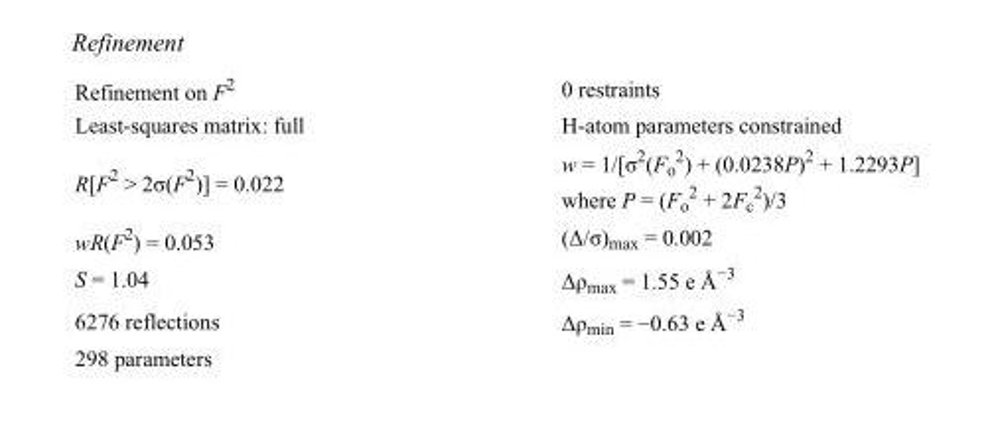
<table><tbody><tr><td>Refinement on F<sup>2</sup></td><td>0 restraints</td></tr><tr><td>Least-squares matrix: full</td><td>H-atom parameters constrained</td></tr><tr><td>R[F<sup>2</sup> &gt; 2σ(F<sup>2</sup>)] = 0.022</td><td>w = 1/[σ<sup>2</sup>(F<sub>o</sub> <sup>2</sup>) + (0.0238P)<sup>2</sup> + 1.2293P] where P = (F<sub>o</sub> <sup>2</sup> + 2F<sub>c</sub> <sup>2</sup>)/3</td></tr><tr><td>wR(F<sup>2</sup>) = 0.053</td><td>(Δ/σ)<sub>max</sub> = 0.002</td></tr><tr><td>S = 1.04</td><td>Δρ<sub>max</sub> = 1.55 e Å<sup>−3</sup></td></tr><tr><td>6276 reflections</td><td>Δρ<sub>min</sub> = −0.63 e Å<sup>−3</sup></td></tr><tr><td>298 parameters</td><td></td></tr></tbody></table>